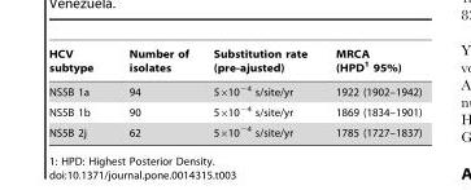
<table><thead><tr><td>HCV subtype</td><td>Number of isolates</td><td>Substitution rate (pre-ajusted)</td><td>MRCA (HPD<sup>1</sup> 95%)</td></tr></thead><tbody><tr><td>NS5B 1a</td><td>94</td><td>5×10<sup>−4</sup> s/site/yr</td><td>1922 (1902–1942)</td></tr><tr><td>NS5B 1b</td><td>90</td><td>5×10<sup>−4</sup> s/site/yr</td><td>1869 (1834–1901)</td></tr><tr><td>NS5B 2j</td><td>62</td><td>5×10<sup>−4</sup> s/site/yr</td><td>1785 (1727–1837)</td></tr></tbody></table>